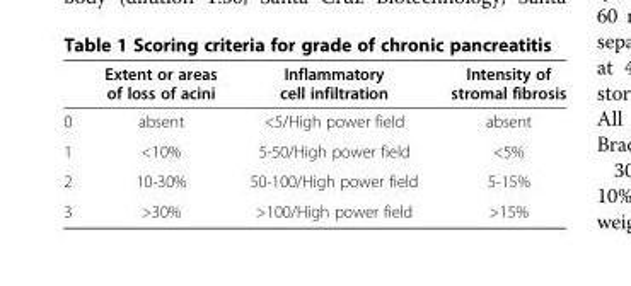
<table><thead><tr><td></td><td>Extent or areas of loss of acini</td><td>Inflammatory cell infiltration</td><td>Intensity of stromal fibrosis</td></tr></thead><tbody><tr><td>0</td><td>absent</td><td>&lt;5/High power field</td><td>absent</td></tr><tr><td>1</td><td>&lt;10%</td><td>5-50/High power field</td><td>&lt;5%</td></tr><tr><td>2</td><td>10-30%</td><td>50-100/High power field</td><td>5-15%</td></tr><tr><td>3</td><td>&gt;30%</td><td>&gt;100/High power field</td><td>&gt;15%</td></tr></tbody></table>